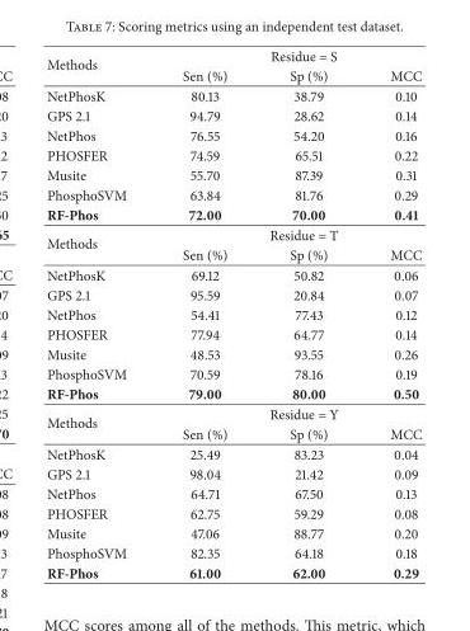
<table><thead><tr><td rowspan="2">Methods</td><td colspan="3">Residue = S</td></tr><tr><td>Sen (%)</td><td>Sp (%)</td><td>MCC</td></tr></thead><tbody><tr><td>NetPhosK</td><td>80.13</td><td>38.79</td><td>0.10</td></tr><tr><td>GPS 2.1</td><td>94.79</td><td>28.62</td><td>0.14</td></tr><tr><td>NetPhos</td><td>76.55</td><td>54.20</td><td>0.16</td></tr><tr><td>PHOSFER</td><td>74.59</td><td>65.51</td><td>0.22</td></tr><tr><td>Musite</td><td>55.70</td><td>87.39</td><td>0.31</td></tr><tr><td>PhosphoSVM</td><td>63.84</td><td>81.76</td><td>0.29</td></tr><tr><td>RF-Phos</td><td>72.00</td><td>70.00</td><td>0.41</td></tr><tr><td rowspan="2">Methods</td><td colspan="3">Residue = T</td></tr><tr><td>Sen (%)</td><td>Sp (%)</td><td>MCC</td></tr><tr><td>NetPhosK</td><td>69.12</td><td>50.82</td><td>0.06</td></tr><tr><td>GPS 2.1</td><td>95.59</td><td>20.84</td><td>0.07</td></tr><tr><td>NetPhos</td><td>54.41</td><td>77.43</td><td>0.12</td></tr><tr><td>PHOSFER</td><td>77.94</td><td>64.77</td><td>0.14</td></tr><tr><td>Musite</td><td>48.53</td><td>93.55</td><td>0.26</td></tr><tr><td>PhosphoSVM</td><td>70.59</td><td>78.16</td><td>0.19</td></tr><tr><td>RF-Phos</td><td>79.00</td><td>80.00</td><td>0.50</td></tr><tr><td rowspan="2">Methods</td><td colspan="3">Residue = Y</td></tr><tr><td>Sen (%)</td><td>Sp (%)</td><td>MCC</td></tr><tr><td>NetPhosK</td><td>25.49</td><td>83.23</td><td>0.04</td></tr><tr><td>GPS 2.1</td><td>98.04</td><td>21.42</td><td>0.09</td></tr><tr><td>NetPhos</td><td>64.71</td><td>67.50</td><td>0.13</td></tr><tr><td>PHOSFER</td><td>62.75</td><td>59.29</td><td>0.08</td></tr><tr><td>Musite</td><td>47.06</td><td>88.77</td><td>0.20</td></tr><tr><td>PhosphoSVM</td><td>82.35</td><td>64.18</td><td>0.18</td></tr><tr><td>RF-Phos</td><td>61.00</td><td>62.00</td><td>0.29</td></tr></tbody></table>